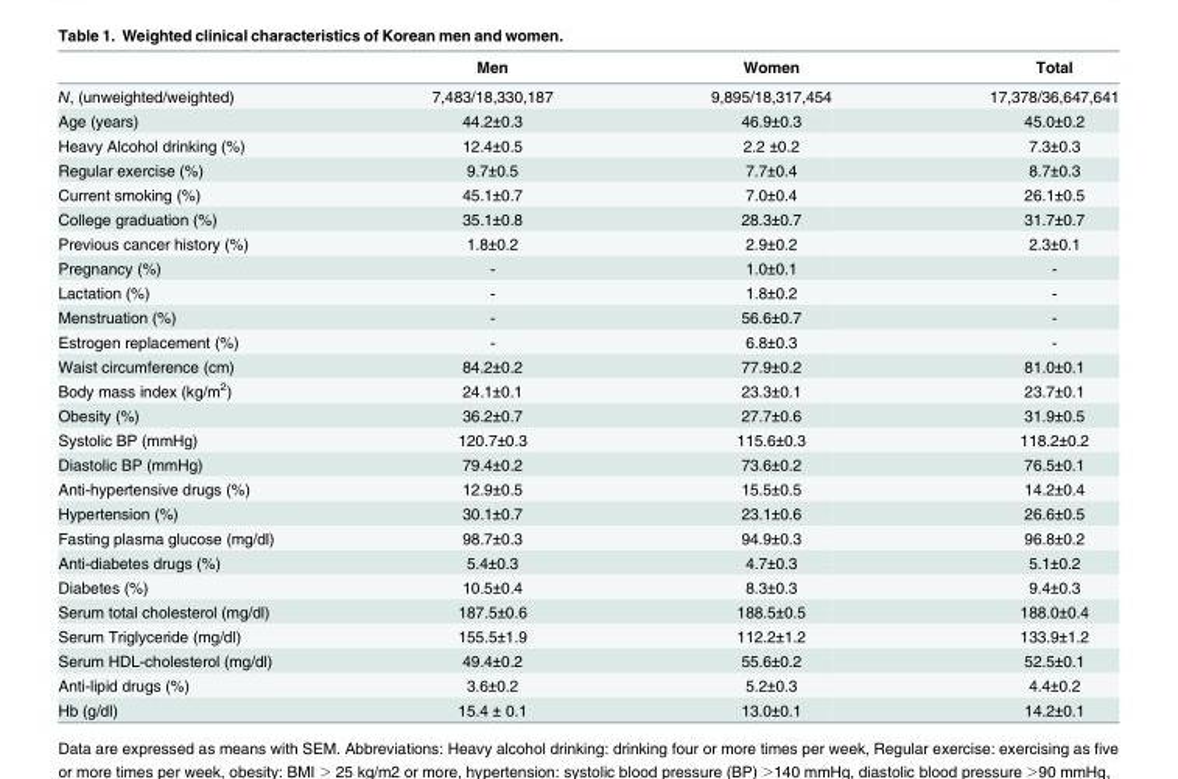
<table><thead><tr><td></td><td>Men</td><td>Women</td><td>Total</td></tr></thead><tbody><tr><td>N, (unweighted/weighted)</td><td>7,483/18,330,187</td><td>9,895/18,317,454</td><td>17,378/36,647,641</td></tr><tr><td>Age (years)</td><td>44.2±0.3</td><td>46.9±0.3</td><td>45.0±0.2</td></tr><tr><td>Heavy Alcohol drinking (%)</td><td>12.4±0.5</td><td>2.2 ±0.2</td><td>7.3±0.3</td></tr><tr><td>Regular exercise (%)</td><td>9.7±0.5</td><td>7.7±0.4</td><td>8.7±0.3</td></tr><tr><td>Current smoking (%)</td><td>45.1±0.7</td><td>7.0±0.4</td><td>26.1±0.5</td></tr><tr><td>College graduation (%)</td><td>35.1±0.8</td><td>28.3±0.7</td><td>31.7±0.7</td></tr><tr><td>Previous cancer history (%)</td><td>1.8±0.2</td><td>2.9±0.2</td><td>2.3±0.1</td></tr><tr><td>Pregnancy (%)</td><td>-</td><td>1.0±0.1</td><td>-</td></tr><tr><td>Lactation (%)</td><td>-</td><td>1.8±0.2</td><td>-</td></tr><tr><td>Menstruation (%)</td><td>-</td><td>56.6±0.7</td><td>-</td></tr><tr><td>Estrogen replacement (%)</td><td>-</td><td>6.8±0.3</td><td>-</td></tr><tr><td>Waist circumference (cm)</td><td>84.2±0.2</td><td>77.9±0.2</td><td>81.0±0.1</td></tr><tr><td>Body mass index (kg/m<sup>2</sup>)</td><td>24.1±0.1</td><td>23.3±0.1</td><td>23.7±0.1</td></tr><tr><td>Obesity (%)</td><td>36.2±0.7</td><td>27.7±0.6</td><td>31.9±0.5</td></tr><tr><td>Systolic BP (mmHg)</td><td>120.7±0.3</td><td>115.6±0.3</td><td>118.2±0.2</td></tr><tr><td>Diastolic BP (mmHg)</td><td>79.4±0.2</td><td>73.6±0.2</td><td>76.5±0.1</td></tr><tr><td>Anti-hypertensive drugs (%)</td><td>12.9±0.5</td><td>15.5±0.5</td><td>14.2±0.4</td></tr><tr><td>Hypertension (%)</td><td>30.1±0.7</td><td>23.1±0.6</td><td>26.6±0.5</td></tr><tr><td>Fasting plasma glucose (mg/dl)</td><td>98.7±0.3</td><td>94.9±0.3</td><td>96.8±0.2</td></tr><tr><td>Anti-diabetes drugs (%)</td><td>5.4±0.3</td><td>4.7±0.3</td><td>5.1±0.2</td></tr><tr><td>Diabetes (%)</td><td>10.5±0.4</td><td>8.3±0.3</td><td>9.4±0.3</td></tr><tr><td>Serum total cholesterol (mg/dl)</td><td>187.5±0.6</td><td>188.5±0.5</td><td>188.0±0.4</td></tr><tr><td>Serum Triglyceride (mg/dl)</td><td>155.5±1.9</td><td>112.2±1.2</td><td>133.9±1.2</td></tr><tr><td>Serum HDL-cholesterol (mg/dl)</td><td>49.4±0.2</td><td>55.6±0.2</td><td>52.5±0.1</td></tr><tr><td>Anti-lipid drugs (%)</td><td>3.6±0.2</td><td>5.2±0.3</td><td>4.4±0.2</td></tr><tr><td>Hb (g/dl)</td><td>15.4 ± 0.1</td><td>13.0±0.1</td><td>14.2±0.1</td></tr></tbody></table>